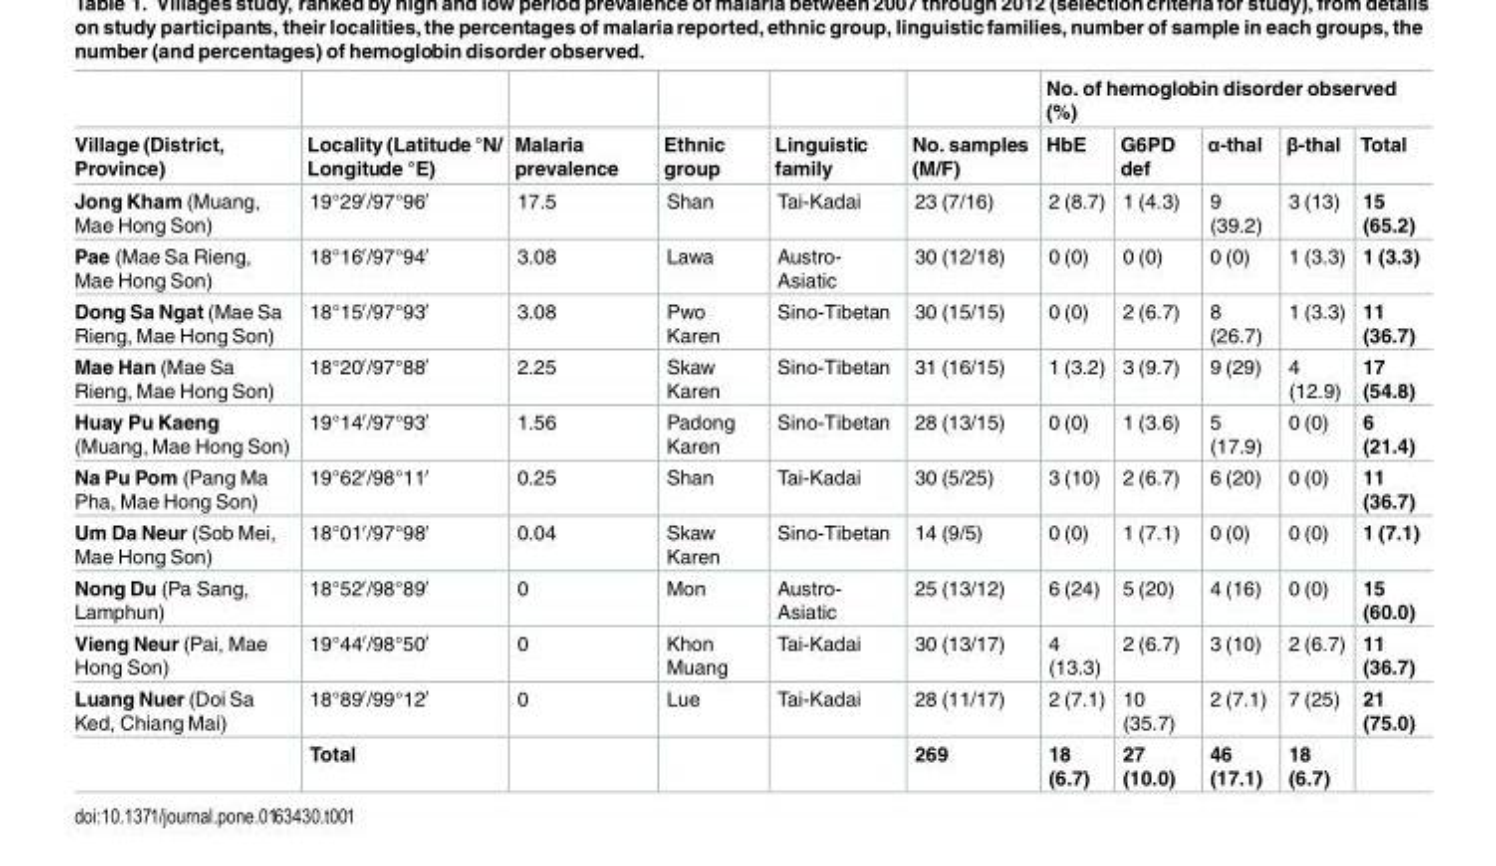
<table><thead><tr><td rowspan="2">Village (District, Province)</td><td rowspan="2">Locality (Latitude °N/ Longitude °E)</td><td rowspan="2">Malaria prevalence</td><td rowspan="2">Ethnic group</td><td rowspan="2">Linguistic family</td><td rowspan="2">No. samples (M/F)</td><td colspan="5">No. of hemoglobin disorder observed (%)</td></tr><tr><td>HbE</td><td>G6PD def</td><td>α-thal</td><td>β-thal</td><td>Total</td></tr></thead><tbody><tr><td>Jong Kham (Muang, Mae Hong Son)</td><td>19°29′/97°96′</td><td>17.5</td><td>Shan</td><td>Tai-Kadai</td><td>23 (7/16)</td><td>2 (8.7)</td><td>1 (4.3)</td><td>9 (39.2)</td><td>3 (13)</td><td>15 (65.2)</td></tr><tr><td>Pae (Mae Sa Rieng, Mae Hong Son)</td><td>18°16′/97°94′</td><td>3.08</td><td>Lawa</td><td>Austro- Asiatic</td><td>30 (12/18)</td><td>0 (0)</td><td>0 (0)</td><td>0 (0)</td><td>1 (3.3)</td><td>1 (3.3)</td></tr><tr><td>Dong Sa Ngat (Mae Sa Rieng, Mae Hong Son)</td><td>18°15′/97°93′</td><td>3.08</td><td>Pwo Karen</td><td>Sino-Tibetan</td><td>30 (15/15)</td><td>0 (0)</td><td>2 (6.7)</td><td>8 (26.7)</td><td>1 (3.3)</td><td>11 (36.7)</td></tr><tr><td>Mae Han (Mae Sa Rieng, Mae Hong Son)</td><td>18°20′/97°88′</td><td>2.25</td><td>Skaw Karen</td><td>Sino-Tibetan</td><td>31 (16/15)</td><td>1 (3.2)</td><td>3 (9.7)</td><td>9 (29)</td><td>4 (12.9)</td><td>17 (54.8)</td></tr><tr><td>Huay Pu Kaeng (Muang, Mae Hong Son)</td><td>19°14′/97°93′</td><td>1.56</td><td>Padong Karen</td><td>Sino-Tibetan</td><td>28 (13/15)</td><td>0 (0)</td><td>1 (3.6)</td><td>5 (17.9)</td><td>0 (0)</td><td>6 (21.4)</td></tr><tr><td>Na Pu Pom (Pang Ma Pha, Mae Hong Son)</td><td>19°62′/98°11′</td><td>0.25</td><td>Shan</td><td>Tai-Kadai</td><td>30 (5/25)</td><td>3 (10)</td><td>2 (6.7)</td><td>6 (20)</td><td>0 (0)</td><td>11 (36.7)</td></tr><tr><td>Um Da Neur (Sob Mei, Mae Hong Son)</td><td>18°01′/97°98′</td><td>0.04</td><td>Skaw Karen</td><td>Sino-Tibetan</td><td>14 (9/5)</td><td>0 (0)</td><td>1 (7.1)</td><td>0 (0)</td><td>0 (0)</td><td>1 (7.1)</td></tr><tr><td>Nong Du (Pa Sang, Lamphun)</td><td>18°52′/98°89′</td><td>0</td><td>Mon</td><td>Austro- Asiatic</td><td>25 (13/12)</td><td>6 (24)</td><td>5 (20)</td><td>4 (16)</td><td>0 (0)</td><td>15 (60.0)</td></tr><tr><td>Vieng Neur (Pai, Mae Hong Son)</td><td>19°44′/98°50′</td><td>0</td><td>Khon Muang</td><td>Tai-Kadai</td><td>30 (13/17)</td><td>4 (13.3)</td><td>2 (6.7)</td><td>3 (10)</td><td>2 (6.7)</td><td>11 (36.7)</td></tr><tr><td rowspan="2">Luang Nuer (Doi Sa Ked, Chiang Mai)</td><td>18°89′/99°12′</td><td>0</td><td>Lue</td><td>Tai-Kadai</td><td>28 (11/17)</td><td>2 (7.1)</td><td>10 (35.7)</td><td>2 (7.1)</td><td>7 (25)</td><td>21 (75.0)</td></tr><tr><td>Total</td><td></td><td></td><td></td><td>269</td><td>18 (6.7)</td><td>27 (10.0)</td><td>46 (17.1)</td><td>18 (6.7)</td><td></td></tr></tbody></table>